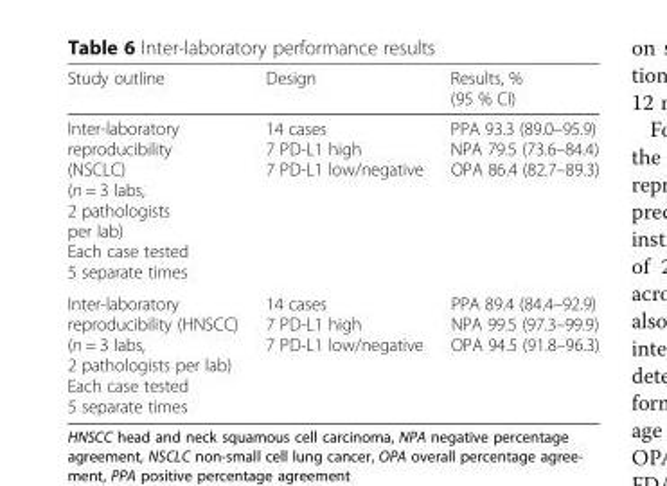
<table><thead><tr><td>Study outline</td><td>Design</td><td>Results, % (95 % CI)</td></tr></thead><tbody><tr><td>Inter-laboratory reproducibility (NSCLC) (n = 3 labs, 2 pathologists per lab) Each case tested 5 separate times</td><td>14 cases 7 PD-L1 high 7 PD-L1 low/negative</td><td>PPA 93.3 (89.0–95.9) NPA 79.5 (73.6–84.4) OPA 86.4 (82.7–89.3)</td></tr><tr><td>Inter-laboratory reproducibility (HNSCC) (n = 3 labs, 2 pathologists per lab) Each case tested 5 separate times</td><td>14 cases 7 PD-L1 high 7 PD-L1 low/negative</td><td>PPA 89.4 (84.4–92.9) NPA 99.5 (97.3–99.9) OPA 94.5 (91.8–96.3)</td></tr></tbody></table>